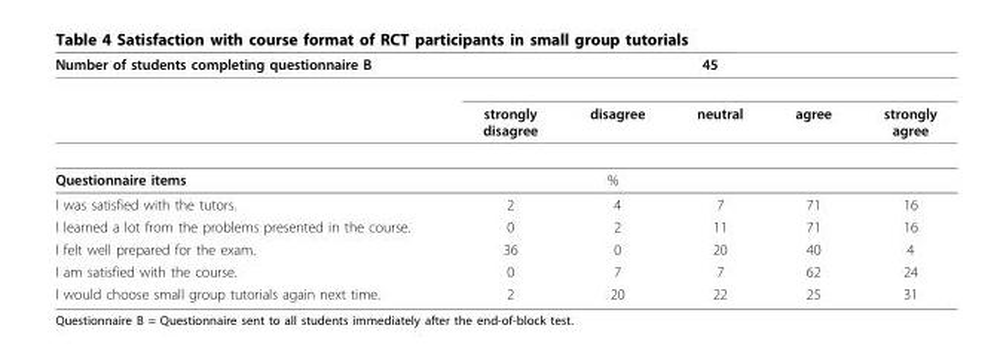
<table><thead><tr><td rowspan="2">Number of students completing questionnaire B</td><td colspan="5">45</td></tr><tr><td>strongly disagree</td><td>disagree</td><td>neutral</td><td>agree</td><td>strongly agree</td></tr></thead><tbody><tr><td>Questionnaire items</td><td colspan="3">%</td><td colspan="2"></td></tr><tr><td>I was satisfied with the tutors.</td><td>2</td><td>4</td><td>7</td><td>71</td><td>16</td></tr><tr><td>I learned a lot from the problems presented in the course.</td><td>0</td><td>2</td><td>11</td><td>71</td><td>16</td></tr><tr><td>I felt well prepared for the exam.</td><td>36</td><td>0</td><td>20</td><td>40</td><td>4</td></tr><tr><td>I am satisfied with the course.</td><td>0</td><td>7</td><td>7</td><td>62</td><td>24</td></tr><tr><td>I would choose small group tutorials again next time.</td><td>2</td><td>20</td><td>22</td><td>25</td><td>31</td></tr></tbody></table>